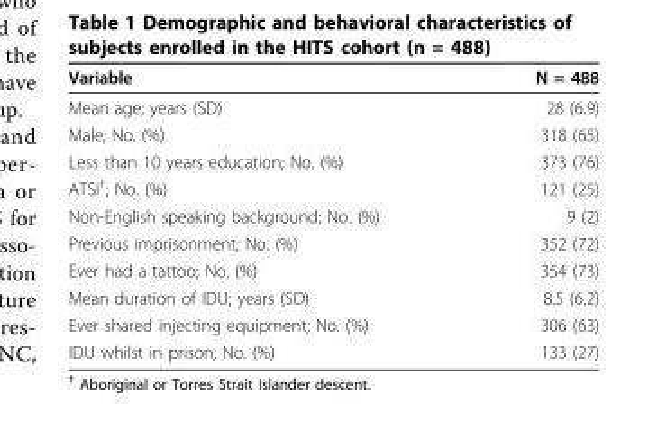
<table><thead><tr><td>Variable</td><td>N = 488</td></tr></thead><tbody><tr><td>Mean age; years (SD)</td><td>28 (6.9)</td></tr><tr><td>Male; No. (%)</td><td>318 (65)</td></tr><tr><td>Less than 10 years education; No. (%)</td><td>373 (76)</td></tr><tr><td>ATSI<sup>†</sup>; No. (%)</td><td>121 (25)</td></tr><tr><td>Non-English speaking background; No. (%)</td><td>9 (2)</td></tr><tr><td>Previous imprisonment; No. (%)</td><td>352 (72)</td></tr><tr><td>Ever had a tattoo; No. (%)</td><td>354 (73)</td></tr><tr><td>Mean duration of IDU; years (SD)</td><td>8.5 (6.2)</td></tr><tr><td>Ever shared injecting equipment; No. (%)</td><td>306 (63)</td></tr><tr><td>IDU whilst in prison; No. (%)</td><td>133 (27)</td></tr></tbody></table>